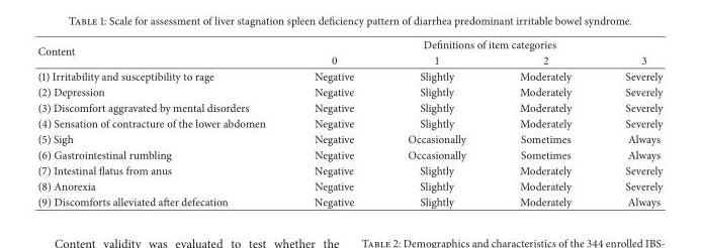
<table><thead><tr><td rowspan="2">Content</td><td colspan="4">Definitions of item categories</td></tr><tr><td>0</td><td>1</td><td>2</td><td>3</td></tr></thead><tbody><tr><td>(1) Irritability and susceptibility to rage</td><td>Negative</td><td>Slightly</td><td>Moderately</td><td>Severely</td></tr><tr><td>(2) Depression</td><td>Negative</td><td>Slightly</td><td>Moderately</td><td>Severely</td></tr><tr><td>(3) Discomfort aggravated by mental disorders</td><td>Negative</td><td>Slightly</td><td>Moderately</td><td>Severely</td></tr><tr><td>(4) Sensation of contracture of the lower abdomen</td><td>Negative</td><td>Slightly</td><td>Moderately</td><td>Severely</td></tr><tr><td>(5) Sigh</td><td>Negative</td><td>Occasionally</td><td>Sometimes</td><td>Always</td></tr><tr><td>(6) Gastrointestinal rumbling</td><td>Negative</td><td>Occasionally</td><td>Sometimes</td><td>Always</td></tr><tr><td>(7) Intestinal flatus from anus</td><td>Negative</td><td>Slightly</td><td>Moderately</td><td>Severely</td></tr><tr><td>(8) Anorexia</td><td>Negative</td><td>Slightly</td><td>Moderately</td><td>Severely</td></tr><tr><td>(9) Discomforts alleviated after defecation</td><td>Negative</td><td>Slightly</td><td>Moderately</td><td>Always</td></tr></tbody></table>